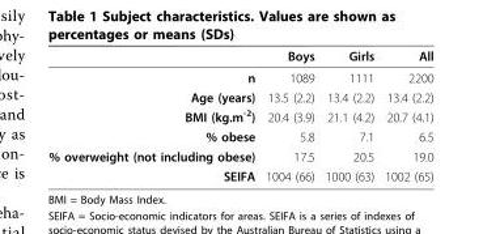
<table><thead><tr><td></td><td>Boys</td><td>Girls</td><td>All</td></tr></thead><tbody><tr><td>n</td><td>1089</td><td>1111</td><td>2200</td></tr><tr><td>Age (years)</td><td>13.5 (2.2)</td><td>13.4 (2.2)</td><td>13.4 (2.2)</td></tr><tr><td>BMI (kg.m<sup>-2</sup>)</td><td>20.4 (3.9)</td><td>21.1 (4.2)</td><td>20.7 (4.1)</td></tr><tr><td>% obese</td><td>5.8</td><td>7.1</td><td>6.5</td></tr><tr><td>% overweight (not including obese)</td><td>17.5</td><td>20.5</td><td>19.0</td></tr><tr><td>SEIFA</td><td>1004 (66)</td><td>1000 (63)</td><td>1002 (65)</td></tr></tbody></table>